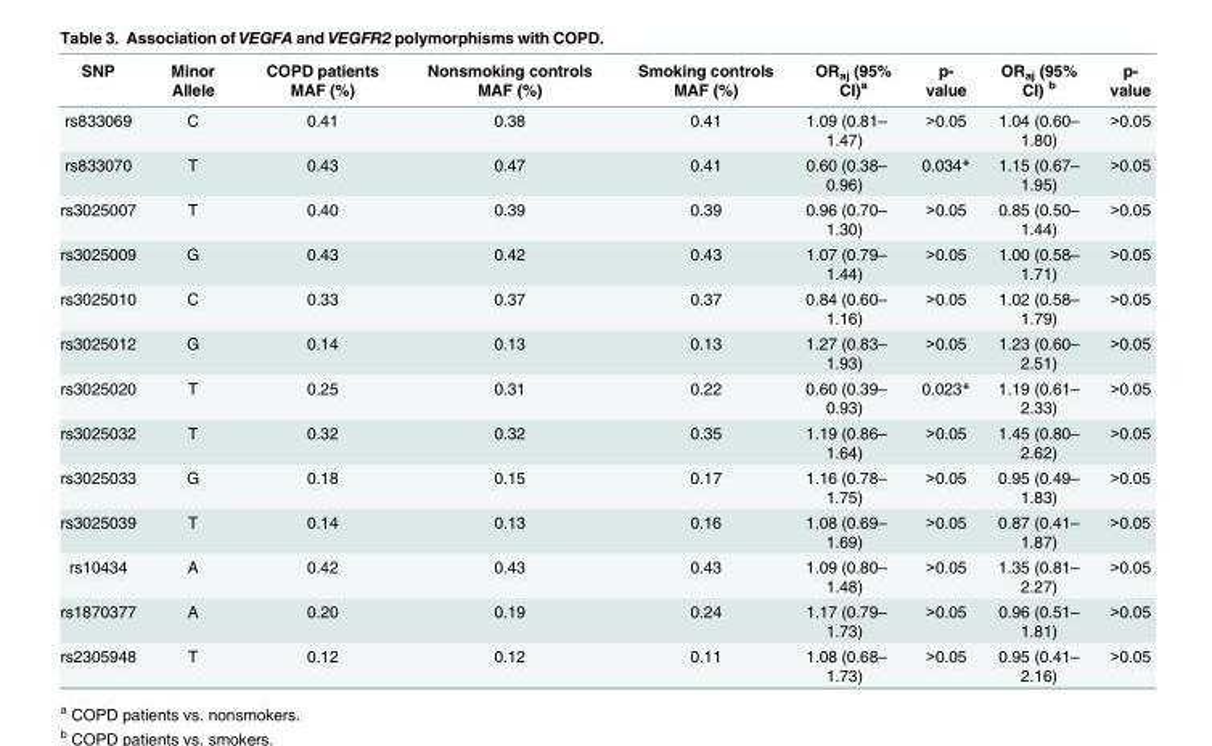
<table><thead><tr><td>SNP</td><td>Minor Allele</td><td>COPD patients MAF (%)</td><td>Nonsmoking controls MAF (%)</td><td>Smoking controls MAF (%)</td><td>OR<sub>aj</sub> (95% CI)<sup>a</sup></td><td>p- value</td><td>OR<sub>aj</sub> (95% CI) <sup>b</sup></td><td>p- value</td></tr></thead><tbody><tr><td>rs833069</td><td>C</td><td>0.41</td><td>0.38</td><td>0.41</td><td>1.09 (0.81– 1.47)</td><td>&gt;0.05</td><td>1.04 (0.60– 1.80)</td><td>&gt;0.05</td></tr><tr><td>rs833070</td><td>T</td><td>0.43</td><td>0.47</td><td>0.41</td><td>0.60 (0.38– 0.96)</td><td>0.034*</td><td>1.15 (0.67– 1.95)</td><td>&gt;0.05</td></tr><tr><td>rs3025007</td><td>T</td><td>0.40</td><td>0.39</td><td>0.39</td><td>0.96 (0.70– 1.30)</td><td>&gt;0.05</td><td>0.85 (0.50– 1.44)</td><td>&gt;0.05</td></tr><tr><td>rs3025009</td><td>G</td><td>0.43</td><td>0.42</td><td>0.43</td><td>1.07 (0.79– 1.44)</td><td>&gt;0.05</td><td>1.00 (0.58– 1.71)</td><td>&gt;0.05</td></tr><tr><td>rs3025010</td><td>C</td><td>0.33</td><td>0.37</td><td>0.37</td><td>0.84 (0.60– 1.16)</td><td>&gt;0.05</td><td>1.02 (0.58– 1.79)</td><td>&gt;0.05</td></tr><tr><td>rs3025012</td><td>G</td><td>0.14</td><td>0.13</td><td>0.13</td><td>1.27 (0.83– 1.93)</td><td>&gt;0.05</td><td>1.23 (0.60– 2.51)</td><td>&gt;0.05</td></tr><tr><td>rs3025020</td><td>T</td><td>0.25</td><td>0.31</td><td>0.22</td><td>0.60 (0.39– 0.93)</td><td>0.023*</td><td>1.19 (0.61– 2.33)</td><td>&gt;0.05</td></tr><tr><td>rs3025032</td><td>T</td><td>0.32</td><td>0.32</td><td>0.35</td><td>1.19 (0.86– 1.64)</td><td>&gt;0.05</td><td>1.45 (0.80– 2.62)</td><td>&gt;0.05</td></tr><tr><td>rs3025033</td><td>G</td><td>0.18</td><td>0.15</td><td>0.17</td><td>1.16 (0.78– 1.75)</td><td>&gt;0.05</td><td>0.95 (0.49– 1.83)</td><td>&gt;0.05</td></tr><tr><td>rs3025039</td><td>T</td><td>0.14</td><td>0.13</td><td>0.16</td><td>1.08 (0.69– 1.69)</td><td>&gt;0.05</td><td>0.87 (0.41– 1.87)</td><td>&gt;0.05</td></tr><tr><td>rs10434</td><td>A</td><td>0.42</td><td>0.43</td><td>0.43</td><td>1.09 (0.80– 1.48)</td><td>&gt;0.05</td><td>1.35 (0.81– 2.27)</td><td>&gt;0.05</td></tr><tr><td>rs1870377</td><td>A</td><td>0.20</td><td>0.19</td><td>0.24</td><td>1.17 (0.79– 1.73)</td><td>&gt;0.05</td><td>0.96 (0.51– 1.81)</td><td>&gt;0.05</td></tr><tr><td>rs2305948</td><td>T</td><td>0.12</td><td>0.12</td><td>0.11</td><td>1.08 (0.68– 1.73)</td><td>&gt;0.05</td><td>0.95 (0.41– 2.16)</td><td>&gt;0.05</td></tr></tbody></table>